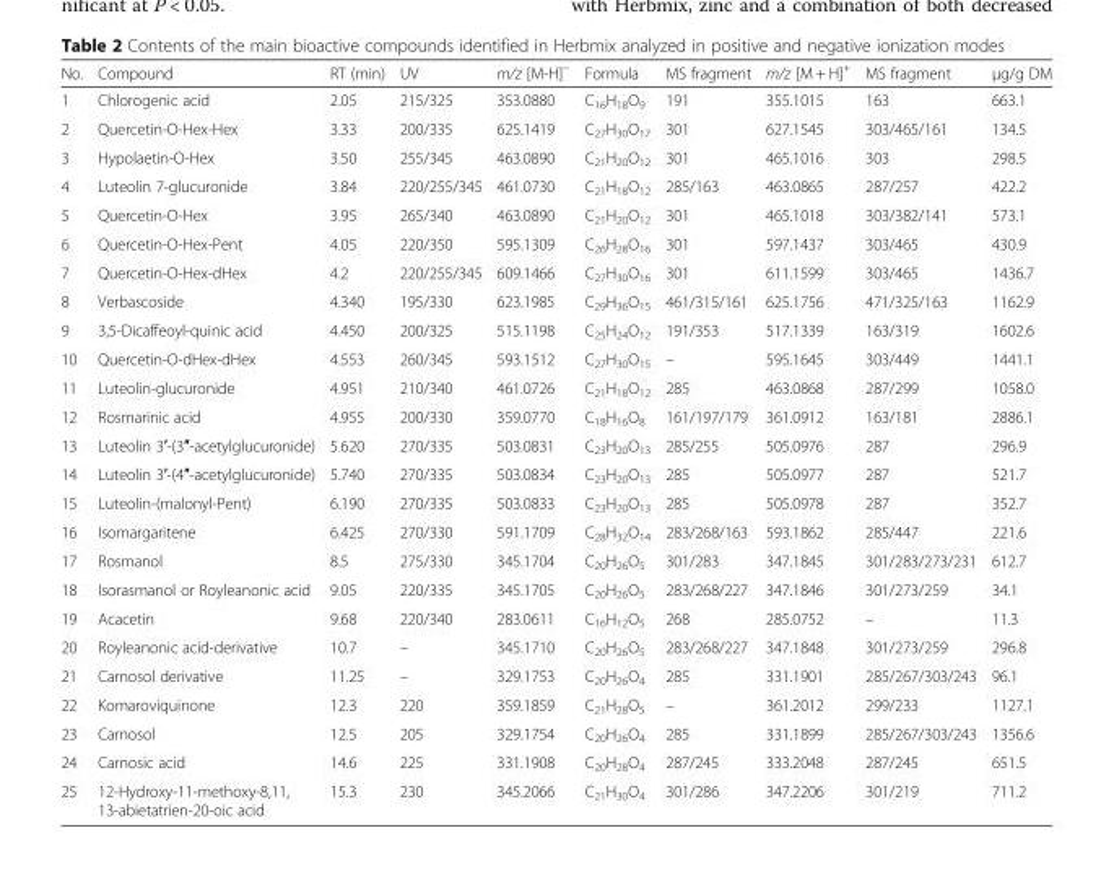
<table><thead><tr><td>No.</td><td>Compound</td><td>RT (min)</td><td>UV</td><td>m/z [M-H]<sup>−</sup></td><td>Formula</td><td>MS fragment</td><td>m/z [M + H]<sup>+</sup></td><td>MS fragment</td><td>μg/g DM</td></tr></thead><tbody><tr><td>1</td><td>Chlorogenic acid</td><td>2.05</td><td>215/325</td><td>353.0880</td><td>C<sub>16</sub>H<sub>18</sub>O<sub>9</sub></td><td>191</td><td>355.1015</td><td>163</td><td>663.1</td></tr><tr><td>2</td><td>Quercetin-O-Hex-Hex</td><td>3.33</td><td>200/335</td><td>625.1419</td><td>C<sub>27</sub>H<sub>30</sub>O<sub>17</sub></td><td>301</td><td>627.1545</td><td>303/465/161</td><td>134.5</td></tr><tr><td>3</td><td>Hypolaetin-O-Hex</td><td>3.50</td><td>255/345</td><td>463.0890</td><td>C<sub>21</sub>H<sub>20</sub>O<sub>12</sub></td><td>301</td><td>465.1016</td><td>303</td><td>298.5</td></tr><tr><td>4</td><td>Luteolin 7-glucuronide</td><td>3.84</td><td>220/255/345</td><td>461.0730</td><td>C<sub>21</sub>H<sub>18</sub>O<sub>12</sub></td><td>285/163</td><td>463.0865</td><td>287/257</td><td>422.2</td></tr><tr><td>5</td><td>Quercetin-O-Hex</td><td>3.95</td><td>265/340</td><td>463.0890</td><td>C<sub>21</sub>H<sub>20</sub>O<sub>12</sub></td><td>301</td><td>465.1018</td><td>303/382/141</td><td>573.1</td></tr><tr><td>6</td><td>Quercetin-O-Hex-Pent</td><td>4.05</td><td>220/350</td><td>595.1309</td><td>C<sub>26</sub>H<sub>28</sub>O<sub>16</sub></td><td>301</td><td>597.1437</td><td>303/465</td><td>430.9</td></tr><tr><td>7</td><td>Quercetin-O-Hex-dHex</td><td>4.2</td><td>220/255/345</td><td>609.1466</td><td>C<sub>27</sub>H<sub>30</sub>O<sub>16</sub></td><td>301</td><td>611.1599</td><td>303/465</td><td>1436.7</td></tr><tr><td>8</td><td>Verbascoside</td><td>4.340</td><td>195/330</td><td>623.1985</td><td>C<sub>29</sub>H<sub>36</sub>O<sub>15</sub></td><td>461/315/161</td><td>625.1756</td><td>471/325/163</td><td>1162.9</td></tr><tr><td>9</td><td>3,5-Dicaffeoyl-quinic acid</td><td>4.450</td><td>200/325</td><td>515.1198</td><td>C<sub>25</sub>H<sub>24</sub>O<sub>12</sub></td><td>191/353</td><td>517.1339</td><td>163/319</td><td>1602.6</td></tr><tr><td>10</td><td>Quercetin-O-dHex-dHex</td><td>4.553</td><td>260/345</td><td>593.1512</td><td>C<sub>27</sub>H<sub>30</sub>O<sub>15</sub></td><td>–</td><td>595.1645</td><td>303/449</td><td>1441.1</td></tr><tr><td>11</td><td>Luteolin-glucuronide</td><td>4.951</td><td>210/340</td><td>461.0726</td><td>C<sub>21</sub>H<sub>18</sub>O<sub>12</sub></td><td>285</td><td>463.0868</td><td>287/299</td><td>1058.0</td></tr><tr><td>12</td><td>Rosmarinic acid</td><td>4.955</td><td>200/330</td><td>359.0770</td><td>C<sub>18</sub>H<sub>16</sub>O<sub>8</sub></td><td>161/197/179</td><td>361.0912</td><td>163/181</td><td>2886.1</td></tr><tr><td>13</td><td>Luteolin 3′-(3″-acetylglucuronide)</td><td>5.620</td><td>270/335</td><td>503.0831</td><td>C<sub>23</sub>H<sub>20</sub>O<sub>13</sub></td><td>285/255</td><td>505.0976</td><td>287</td><td>296.9</td></tr><tr><td>14</td><td>Luteolin 3′-(4″-acetylglucuronide)</td><td>5.740</td><td>270/335</td><td>503.0834</td><td>C<sub>23</sub>H<sub>20</sub>O<sub>13</sub></td><td>285</td><td>505.0977</td><td>287</td><td>521.7</td></tr><tr><td>15</td><td>Luteolin-(malonyl-Pent)</td><td>6.190</td><td>270/335</td><td>503.0833</td><td>C<sub>23</sub>H<sub>20</sub>O<sub>13</sub></td><td>285</td><td>505.0978</td><td>287</td><td>352.7</td></tr><tr><td>16</td><td>Isomargaritene</td><td>6.425</td><td>270/330</td><td>591.1709</td><td>C<sub>28</sub>H<sub>32</sub>O<sub>14</sub></td><td>283/268/163</td><td>593.1862</td><td>285/447</td><td>221.6</td></tr><tr><td>17</td><td>Rosmanol</td><td>8.5</td><td>275/330</td><td>345.1704</td><td>C<sub>20</sub>H<sub>26</sub>O<sub>5</sub></td><td>301/283</td><td>347.1845</td><td>301/283/273/231</td><td>612.7</td></tr><tr><td>18</td><td>Isorasmanol or Royleanonic acid</td><td>9.05</td><td>220/335</td><td>345.1705</td><td>C<sub>20</sub>H<sub>26</sub>O<sub>5</sub></td><td>283/268/227</td><td>347.1846</td><td>301/273/259</td><td>34.1</td></tr><tr><td>19</td><td>Acacetin</td><td>9.68</td><td>220/340</td><td>283.0611</td><td>C<sub>16</sub>H<sub>12</sub>O<sub>5</sub></td><td>268</td><td>285.0752</td><td>–</td><td>11.3</td></tr><tr><td>20</td><td>Royleanonic acid-derivative</td><td>10.7</td><td>–</td><td>345.1710</td><td>C<sub>20</sub>H<sub>26</sub>O<sub>5</sub></td><td>283/268/227</td><td>347.1848</td><td>301/273/259</td><td>296.8</td></tr><tr><td>21</td><td>Carnosol derivative</td><td>11.25</td><td>–</td><td>329.1753</td><td>C<sub>20</sub>H<sub>26</sub>O<sub>4</sub></td><td>285</td><td>331.1901</td><td>285/267/303/243</td><td>96.1</td></tr><tr><td>22</td><td>Komaroviquinone</td><td>12.3</td><td>220</td><td>359.1859</td><td>C<sub>21</sub>H<sub>28</sub>O<sub>5</sub></td><td>–</td><td>361.2012</td><td>299/233</td><td>1127.1</td></tr><tr><td>23</td><td>Carnosol</td><td>12.5</td><td>205</td><td>329.1754</td><td>C<sub>20</sub>H<sub>26</sub>O<sub>4</sub></td><td>285</td><td>331.1899</td><td>285/267/303/243</td><td>1356.6</td></tr><tr><td>24</td><td>Carnosic acid</td><td>14.6</td><td>225</td><td>331.1908</td><td>C<sub>20</sub>H<sub>28</sub>O<sub>4</sub></td><td>287/245</td><td>333.2048</td><td>287/245</td><td>651.5</td></tr><tr><td>25</td><td>12-Hydroxy-11-methoxy-8,11, 13-abietatrien-20-oic acid</td><td>15.3</td><td>230</td><td>345.2066</td><td>C<sub>21</sub>H<sub>30</sub>O<sub>4</sub></td><td>301/286</td><td>347.2206</td><td>301/219</td><td>711.2</td></tr></tbody></table>